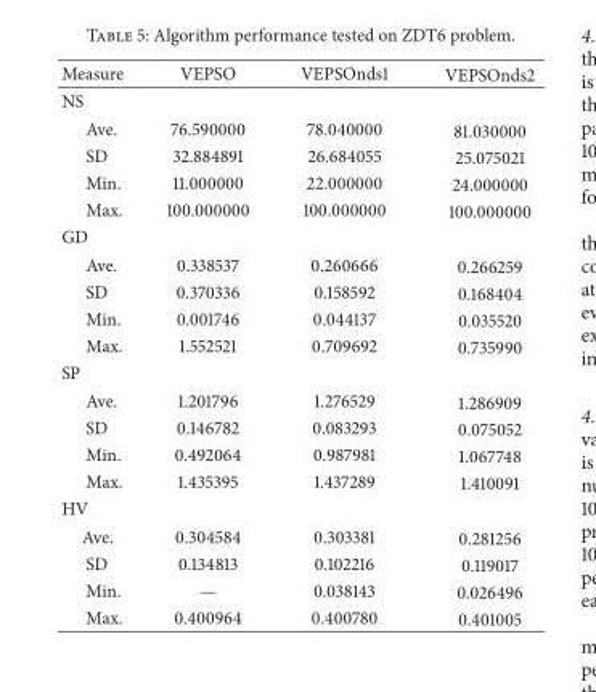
<table><thead><tr><td>Measure</td><td>VEPSO</td><td>VEPSOnds1</td><td>VEPSOnds2</td></tr></thead><tbody><tr><td colspan="4">NS</td></tr><tr><td>Ave.</td><td>76.590000</td><td>78.040000</td><td>81.030000</td></tr><tr><td>SD</td><td>32.884891</td><td>26.684055</td><td>25.075021</td></tr><tr><td>Min.</td><td>11.000000</td><td>22.000000</td><td>24.000000</td></tr><tr><td>Max.</td><td>100.000000</td><td>100.000000</td><td>100.000000</td></tr><tr><td colspan="4">GD</td></tr><tr><td>Ave.</td><td>0.338537</td><td>0.260666</td><td>0.266259</td></tr><tr><td>SD</td><td>0.370336</td><td>0.158592</td><td>0.168404</td></tr><tr><td>Min.</td><td>0.001746</td><td>0.044137</td><td>0.035520</td></tr><tr><td>Max.</td><td>1.552521</td><td>0.709692</td><td>0.735990</td></tr><tr><td colspan="4">SP</td></tr><tr><td>Ave.</td><td>1.201796</td><td>1.276529</td><td>1.286909</td></tr><tr><td>SD</td><td>0.146782</td><td>0.083293</td><td>0.075052</td></tr><tr><td>Min.</td><td>0.492064</td><td>0.987981</td><td>1.067748</td></tr><tr><td>Max.</td><td>1.435395</td><td>1.437289</td><td>1.410091</td></tr><tr><td colspan="4">HV</td></tr><tr><td>Ave.</td><td>0.304584</td><td>0.303381</td><td>0.281256</td></tr><tr><td>SD</td><td>0.134813</td><td>0.102216</td><td>0.119017</td></tr><tr><td>Min.</td><td>—</td><td>0.038143</td><td>0.026496</td></tr><tr><td>Max.</td><td>0.400964</td><td>0.400780</td><td>0.401005</td></tr></tbody></table>